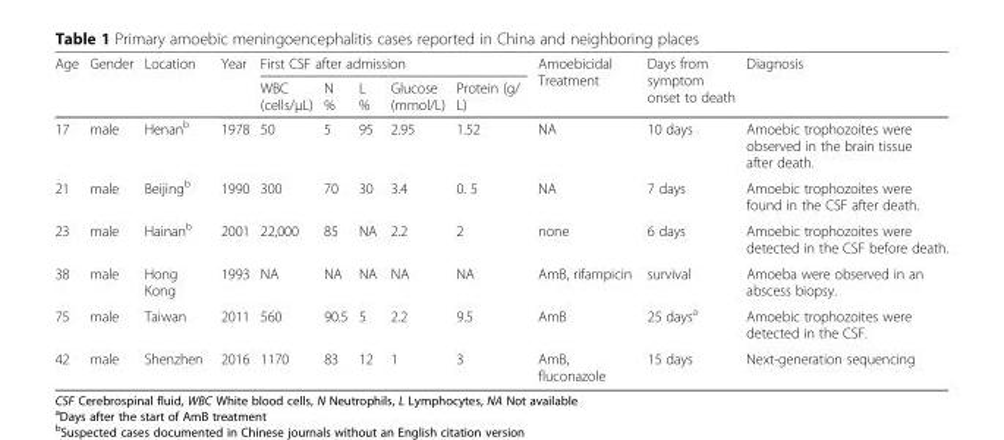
<table><thead><tr><td rowspan="2">Age</td><td rowspan="2">Gender</td><td rowspan="2">Location</td><td rowspan="2">Year</td><td colspan="5">First CSF after admission</td><td rowspan="2">Amoebicidal Treatment</td><td rowspan="2">Days from symptom onset to death</td><td rowspan="2">Diagnosis</td></tr><tr><td>WBC (cells/μL)</td><td>N %</td><td>L %</td><td>Glucose (mmol/L)</td><td>Protein (g/ L)</td></tr></thead><tbody><tr><td>17</td><td>male</td><td>Henan<sup>b</sup></td><td>1978</td><td>50</td><td>5</td><td>95</td><td>2.95</td><td>1.52</td><td>NA</td><td>10 days</td><td>Amoebic trophozoites were observed in the brain tissue after death.</td></tr><tr><td>21</td><td>male</td><td>Beijing<sup>b</sup></td><td>1990</td><td>300</td><td>70</td><td>30</td><td>3.4</td><td>0. 5</td><td>NA</td><td>7 days</td><td>Amoebic trophozoites were found in the CSF after death.</td></tr><tr><td>23</td><td>male</td><td>Hainan<sup>b</sup></td><td>2001</td><td>22,000</td><td>85</td><td>NA</td><td>2.2</td><td>2</td><td>none</td><td>6 days</td><td>Amoebic trophozoites were detected in the CSF before death.</td></tr><tr><td>38</td><td>male</td><td>Hong Kong</td><td>1993</td><td>NA</td><td>NA</td><td>NA</td><td>NA</td><td>NA</td><td>AmB, rifampicin</td><td>survival</td><td>Amoeba were observed in an abscess biopsy.</td></tr><tr><td>75</td><td>male</td><td>Taiwan</td><td>2011</td><td>560</td><td>90.5</td><td>5</td><td>2.2</td><td>9.5</td><td>AmB</td><td>25 days<sup>a</sup></td><td>Amoebic trophozoites were detected in the CSF.</td></tr><tr><td>42</td><td>male</td><td>Shenzhen</td><td>2016</td><td>1170</td><td>83</td><td>12</td><td>1</td><td>3</td><td>AmB, fluconazole</td><td>15 days</td><td>Next-generation sequencing</td></tr></tbody></table>